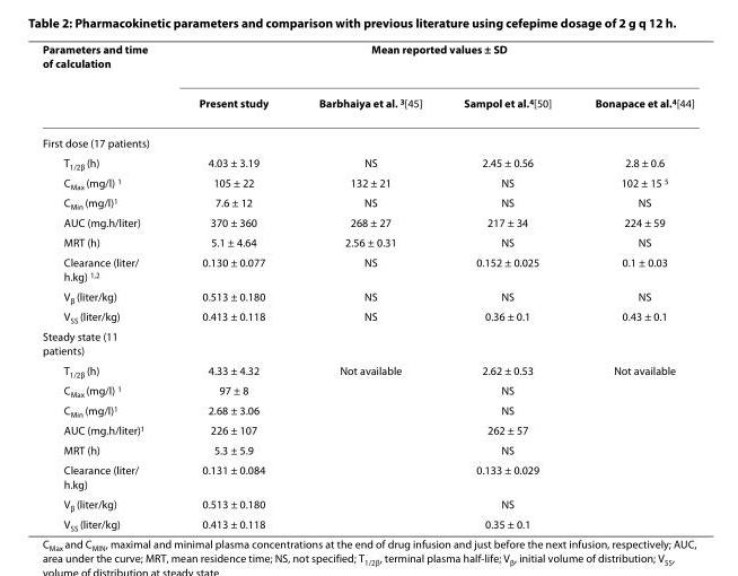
<table><thead><tr><td rowspan="2">Parameters and time of calculation</td><td colspan="4">Mean reported values ± SD</td></tr><tr><td>Present study</td><td>Barbhaiya et al. <sup>3</sup>[45]</td><td>Sampol et al.<sup>4</sup>[50]</td><td>Bonapace et al.<sup>4</sup>[44]</td></tr></thead><tbody><tr><td colspan="5">First dose (17 patients)</td></tr><tr><td>T<sub>1/2β</sub> (h)</td><td>4.03 ± 3.19</td><td>NS</td><td>2.45 ± 0.56</td><td>2.8 ± 0.6</td></tr><tr><td>C<sub>Max</sub> (mg/l) <sup>1</sup></td><td>105 ± 22</td><td>132 ± 21</td><td>NS</td><td>102 ± 15 <sup>5</sup></td></tr><tr><td>C<sub>Min</sub> (mg/l)<sup>1</sup></td><td>7.6 ± 12</td><td>NS</td><td>NS</td><td>NS</td></tr><tr><td>AUC (mg.h/liter)</td><td>370 ± 360</td><td>268 ± 27</td><td>217 ± 34</td><td>224 ± 59</td></tr><tr><td>MRT (h)</td><td>5.1 ± 4.64</td><td>2.56 ± 0.31</td><td>NS</td><td>NS</td></tr><tr><td>Clearance (liter/ h.kg) <sup>1,2</sup></td><td>0.130 ± 0.077</td><td>NS</td><td>0.152 ± 0.025</td><td>0.1 ± 0.03</td></tr><tr><td>V<sub>β</sub> (liter/kg)</td><td>0.513 ± 0.180</td><td>NS</td><td>NS</td><td>NS</td></tr><tr><td>V<sub>SS</sub> (liter/kg)</td><td>0.413 ± 0.118</td><td>NS</td><td>0.36 ± 0.1</td><td>0.43 ± 0.1</td></tr><tr><td colspan="5">Steady state (11 patients)</td></tr><tr><td>T<sub>1/2β</sub> (h)</td><td>4.33 ± 4.32</td><td>Not available</td><td>2.62 ± 0.53</td><td>Not available</td></tr><tr><td>C<sub>Max</sub> (mg/l) <sup>1</sup></td><td>97 ± 8</td><td></td><td>NS</td><td></td></tr><tr><td>C<sub>Min</sub> (mg/l)<sup>1</sup></td><td>2.68 ± 3.06</td><td></td><td>NS</td><td></td></tr><tr><td>AUC (mg.h/liter)<sup>1</sup></td><td>226 ± 107</td><td></td><td>262 ± 57</td><td></td></tr><tr><td>MRT (h)</td><td>5.3 ± 5.9</td><td></td><td>NS</td><td></td></tr><tr><td>Clearance (liter/ h.kg)</td><td>0.131 ± 0.084</td><td></td><td>0.133 ± 0.029</td><td></td></tr><tr><td>V<sub>β</sub> (liter/kg)</td><td>0.513 ± 0.180</td><td></td><td>NS</td><td></td></tr><tr><td>V<sub>SS</sub> (liter/kg)</td><td>0.413 ± 0.118</td><td></td><td>0.35 ± 0.1</td><td></td></tr></tbody></table>